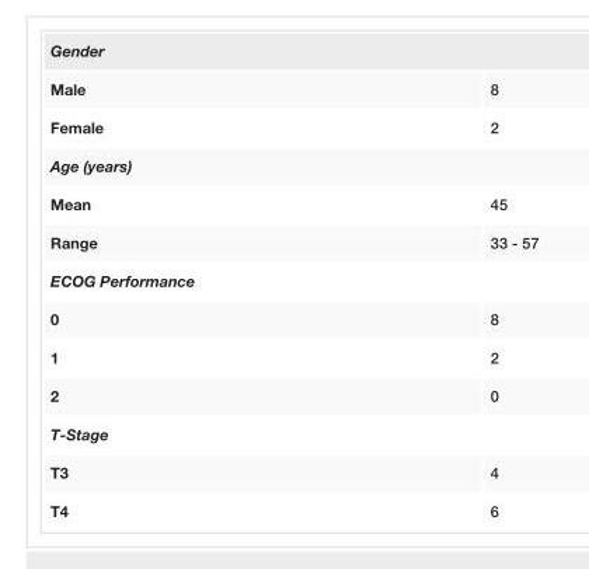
<table><tbody><tr><td colspan="2">Gender</td></tr><tr><td>Male</td><td>8</td></tr><tr><td>Female</td><td>2</td></tr><tr><td colspan="2">Age (years)</td></tr><tr><td>Mean</td><td>45</td></tr><tr><td>Range</td><td>33 - 57</td></tr><tr><td colspan="2">ECOG Performance</td></tr><tr><td>0</td><td>8</td></tr><tr><td>1</td><td>2</td></tr><tr><td>2</td><td>0</td></tr><tr><td colspan="2">T-Stage</td></tr><tr><td>T3</td><td>4</td></tr><tr><td>T4</td><td>6</td></tr></tbody></table>